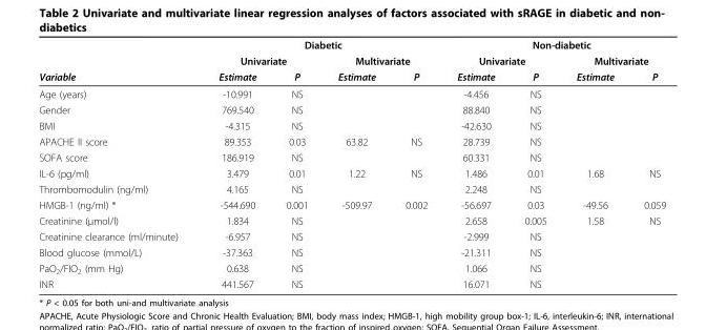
<table><thead><tr><td rowspan="3">Variable</td><td colspan="4">Diabetic</td><td colspan="4">Non-diabetic</td></tr><tr><td colspan="2">Univariate</td><td colspan="2">Multivariate</td><td colspan="2">Univariate</td><td colspan="2">Multivariate</td></tr><tr><td>Estimate</td><td>P</td><td>Estimate</td><td>P</td><td>Estimate</td><td>P</td><td>Estimate</td><td>P</td></tr></thead><tbody><tr><td>Age (years)</td><td>-10.991</td><td>NS</td><td></td><td></td><td>-4.456</td><td>NS</td><td></td><td></td></tr><tr><td>Gender</td><td>769.540</td><td>NS</td><td></td><td></td><td>88.840</td><td>NS</td><td></td><td></td></tr><tr><td>BMI</td><td>-4.315</td><td>NS</td><td></td><td></td><td>-42.630</td><td>NS</td><td></td><td></td></tr><tr><td>APACHE II score</td><td>89.353</td><td>0.03</td><td>63.82</td><td>NS</td><td>28.739</td><td>NS</td><td></td><td></td></tr><tr><td>SOFA score</td><td>186.919</td><td>NS</td><td></td><td></td><td>60.331</td><td>NS</td><td></td><td></td></tr><tr><td>IL-6 (pg/ml)</td><td>3.479</td><td>0.01</td><td>1.22</td><td>NS</td><td>1.486</td><td>0.01</td><td>1.68</td><td>NS</td></tr><tr><td>Thrombomodulin (ng/ml)</td><td>4.165</td><td>NS</td><td></td><td></td><td>2.248</td><td>NS</td><td></td><td></td></tr><tr><td>HMGB-1 (ng/ml) *</td><td>-544.690</td><td>0.001</td><td>-509.97</td><td>0.002</td><td>-56.697</td><td>0.03</td><td>-49.56</td><td>0.059</td></tr><tr><td>Creatinine (μmol/l)</td><td>1.834</td><td>NS</td><td></td><td></td><td>2.658</td><td>0.005</td><td>1.58</td><td>NS</td></tr><tr><td>Creatinine clearance (ml/minute)</td><td>-6.957</td><td>NS</td><td></td><td></td><td>-2.999</td><td>NS</td><td></td><td></td></tr><tr><td>Blood glucose (mmol/L)</td><td>-37.363</td><td>NS</td><td></td><td></td><td>-21.311</td><td>NS</td><td></td><td></td></tr><tr><td>PaO<sub>2</sub>/FIO<sub>2</sub> (mm Hg)</td><td>0.638</td><td>NS</td><td></td><td></td><td>1.066</td><td>NS</td><td></td><td></td></tr><tr><td>INR</td><td>441.567</td><td>NS</td><td></td><td></td><td>16.071</td><td>NS</td><td></td><td></td></tr></tbody></table>